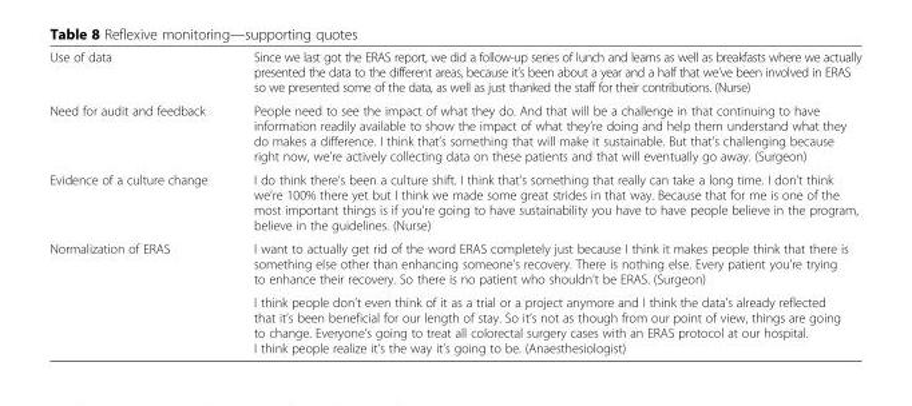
<table><tbody><tr><td>Use of data</td><td>Since we last got the ERAS report, we did a follow-up series of lunch and learns as well as breakfasts where we actually presented the data to the different areas, because it’s been about a year and a half that we’ve been involved in ERAS so we presented some of the data, as well as just thanked the staff for their contributions. (Nurse)</td></tr><tr><td>Need for audit and feedback</td><td>People need to see the impact of what they do. And that will be a challenge in that continuing to have information readily available to show the impact of what they’re doing and help them understand what they do makes a difference. I think that’s something that will make it sustainable. But that’s challenging because right now, we’re actively collecting data on these patients and that will eventually go away. (Surgeon)</td></tr><tr><td>Evidence of a culture change</td><td>I do think there’s been a culture shift. I think that’s something that really can take a long time. I don’t think we’re 100% there yet but I think we made some great strides in that way. Because that for me is one of the most important things is if you’re going to have sustainability you have to have people believe in the program, believe in the guidelines. (Nurse)</td></tr><tr><td rowspan="2">Normalization of ERAS</td><td>I want to actually get rid of the word ERAS completely just because I think it makes people think that there is something else other than enhancing someone’s recovery. There is nothing else. Every patient you’re trying to enhance their recovery. So there is no patient who shouldn’t be ERAS. (Surgeon)</td></tr><tr><td>I think people don’t even think of it as a trial or a project anymore and I think the data’s already reflected that it’s been beneficial for our length of stay. So it’s not as though from our point of view, things are going to change. Everyone’s going to treat all colorectal surgery cases with an ERAS protocol at our hospital. I think people realize it’s the way it’s going to be. (Anaesthesiologist)</td></tr></tbody></table>